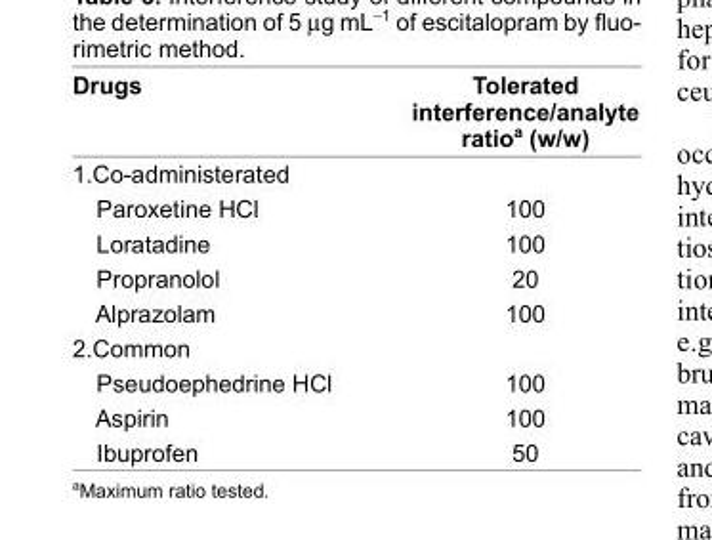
<table><thead><tr><td>Drugs</td><td>Tolerated interference/analyte ratio<sup>a</sup> (w/w)</td></tr></thead><tbody><tr><td colspan="2">1.Co-administerated</td></tr><tr><td>Paroxetine HCl</td><td>100</td></tr><tr><td>Loratadine</td><td>100</td></tr><tr><td>Propranolol</td><td>20</td></tr><tr><td>Alprazolam</td><td>100</td></tr><tr><td colspan="2">2.Common</td></tr><tr><td>Pseudoephedrine HCl</td><td>100</td></tr><tr><td>Aspirin</td><td>100</td></tr><tr><td>Ibuprofen</td><td>50</td></tr></tbody></table>